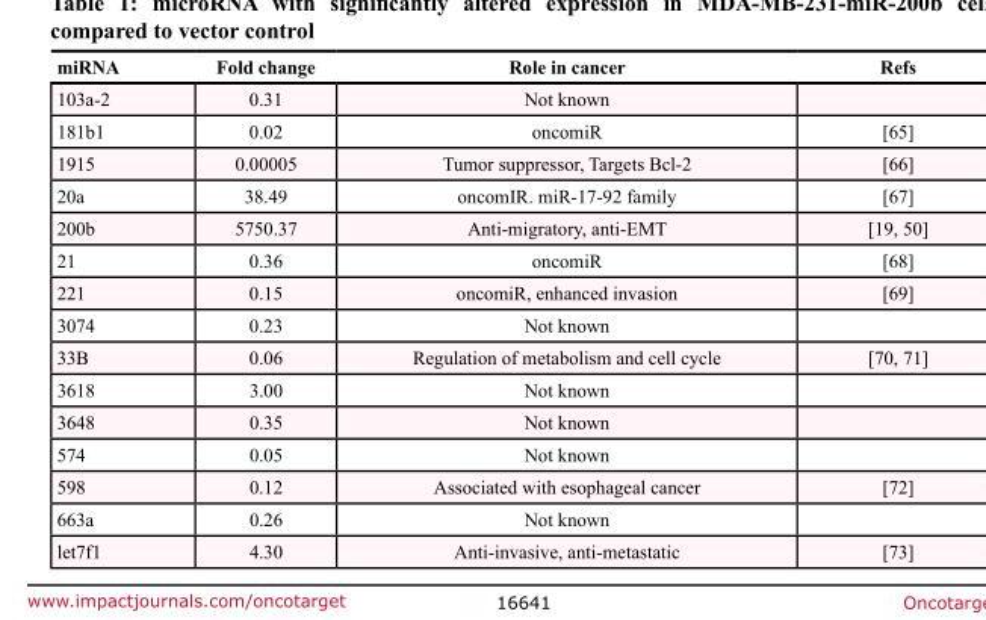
<table><thead><tr><td>miRNA</td><td>Fold change</td><td>Role in cancer</td><td>Refs</td></tr></thead><tbody><tr><td>103a-2</td><td>0.31</td><td>Not known</td><td></td></tr><tr><td>181b1</td><td>0.02</td><td>oncomiR</td><td>[65]</td></tr><tr><td>1915</td><td>0.00005</td><td>Tumor suppressor, Targets Bcl-2</td><td>[66]</td></tr><tr><td>20a</td><td>38.49</td><td>oncomIR. miR-17-92 family</td><td>[67]</td></tr><tr><td>200b</td><td>5750.37</td><td>Anti-migratory, anti-EMT</td><td>[19, 50]</td></tr><tr><td>21</td><td>0.36</td><td>oncomiR</td><td>[68]</td></tr><tr><td>221</td><td>0.15</td><td>oncomiR, enhanced invasion</td><td>[69]</td></tr><tr><td>3074</td><td>0.23</td><td>Not known</td><td></td></tr><tr><td>33B</td><td>0.06</td><td>Regulation of metabolism and cell cycle</td><td>[70, 71]</td></tr><tr><td>3618</td><td>3.00</td><td>Not known</td><td></td></tr><tr><td>3648</td><td>0.35</td><td>Not known</td><td></td></tr><tr><td>574</td><td>0.05</td><td>Not known</td><td></td></tr><tr><td>598</td><td>0.12</td><td>Associated with esophageal cancer</td><td>[72]</td></tr><tr><td>663a</td><td>0.26</td><td>Not known</td><td></td></tr><tr><td>let7f1</td><td>4.30</td><td>Anti-invasive, anti-metastatic</td><td>[73]</td></tr></tbody></table>